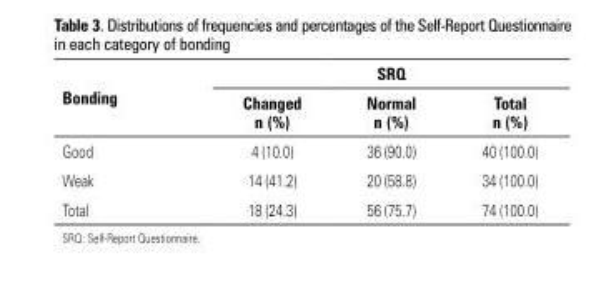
<table><thead><tr><td rowspan="2">Bonding</td><td colspan="3">SRQ</td></tr><tr><td>Changed n (%)</td><td>Normal n (%)</td><td>Total n (%)</td></tr></thead><tbody><tr><td>Good</td><td>4 (10.0)</td><td>36 (90.0)</td><td>40 (100.0)</td></tr><tr><td>Weak</td><td>14 (41.2)</td><td>20 (58.8)</td><td>34 (100.0)</td></tr><tr><td>Total</td><td>18 (24.3)</td><td>56 (75.7)</td><td>74 (100.0)</td></tr></tbody></table>